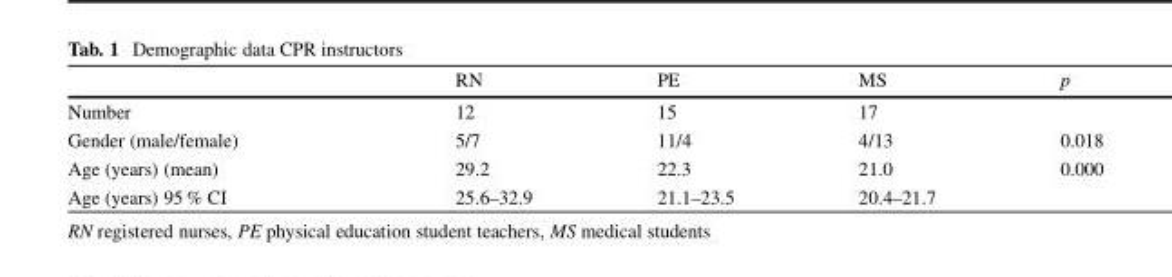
<table><thead><tr><td></td><td>RN</td><td>PE</td><td>MS</td><td>p</td></tr></thead><tbody><tr><td>Number</td><td>12</td><td>15</td><td>17</td><td></td></tr><tr><td>Gender (male/female)</td><td>5/7</td><td>11/4</td><td>4/13</td><td>0.018</td></tr><tr><td>Age (years) (mean)</td><td>29.2</td><td>22.3</td><td>21.0</td><td>0.000</td></tr><tr><td>Age (years) 95 % CI</td><td>25.6–32.9</td><td>21.1–23.5</td><td>20.4–21.7</td><td></td></tr></tbody></table>